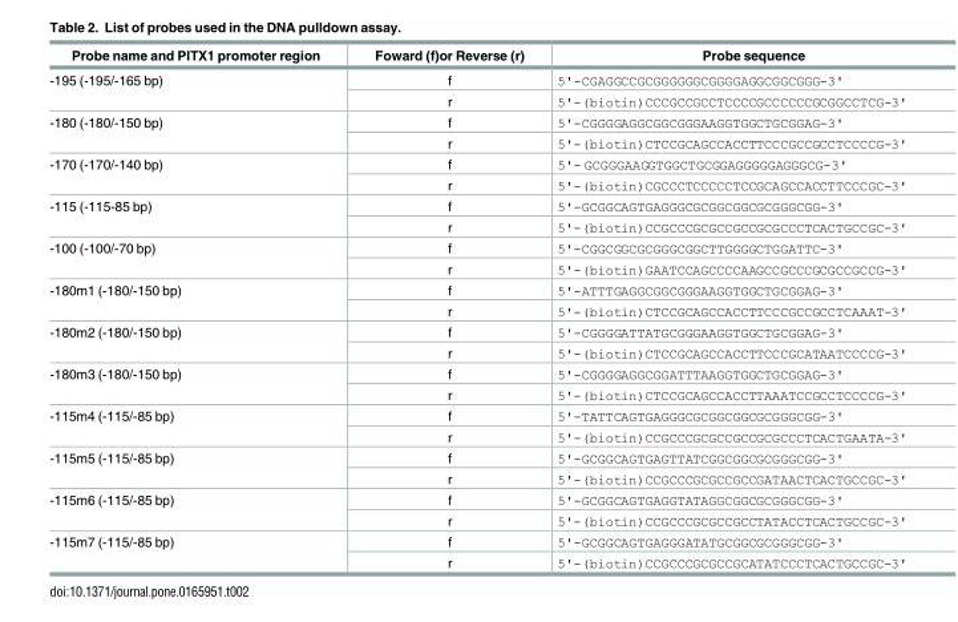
<table><thead><tr><td>Probe name and PITX1 promoter region</td><td>Foward (f)or Reverse (r)</td><td>Probe sequence</td></tr></thead><tbody><tr><td rowspan="2">-195 (-195/-165 bp)</td><td>f</td><td>5&#x27;-CGAGGCCGCGGGGGGCGGGGAGGCGGCGGG-3&#x27;</td></tr><tr><td>r</td><td>5&#x27;-(biotin)CCCGCCGCCTCCCCGCCCCCCGCGGCCTCG-3&#x27;</td></tr><tr><td rowspan="2">-180 (-180/-150 bp)</td><td>f</td><td>5&#x27;-CGGGGAGGCGGCGGGAAGGTGGCTGCGGAG-3&#x27;</td></tr><tr><td>r</td><td>5&#x27;-(biotin)CTCCGCAGCCACCTTCCCGCCGCCTCCCCG-3&#x27;</td></tr><tr><td rowspan="2">-170 (-170/-140 bp)</td><td>f</td><td>5&#x27;- GCGGGAAGGTGGCTGCGGAGGGGGAGGGCG-3&#x27;</td></tr><tr><td>r</td><td>5&#x27;-(biotin)CGCCCTCCCCCTCCGCAGCCACCTTCCCGC-3&#x27;</td></tr><tr><td rowspan="2">-115 (-115-85 bp)</td><td>f</td><td>5&#x27;-GCGGCAGTGAGGGCGCGGCGGCGCGGGCGG-3&#x27;</td></tr><tr><td>r</td><td>5&#x27;-(biotin)CCGCCCGCGCCGCCGCGCCCTCACTGCCGC-3&#x27;</td></tr><tr><td rowspan="2">-100 (-100/-70 bp)</td><td>f</td><td>5&#x27;-CGGCGGCGCGGGCGGCTTGGGGCTGGATTC-3&#x27;</td></tr><tr><td>r</td><td>5&#x27;-(biotin)GAATCCAGCCCCAAGCCGCCCGCGCCGCCG-3&#x27;</td></tr><tr><td rowspan="2">-180m1 (-180/-150 bp)</td><td>f</td><td>5&#x27;-ATTTGAGGCGGCGGGAAGGTGGCTGCGGAG-3&#x27;</td></tr><tr><td>r</td><td>5&#x27;-(biotin)CTCCGCAGCCACCTTCCCGCCGCCTCAAAT-3&#x27;</td></tr><tr><td rowspan="2">-180m2 (-180/-150 bp)</td><td>f</td><td>5&#x27;-CGGGGATTATGCGGGAAGGTGGCTGCGGAG-3&#x27;</td></tr><tr><td>r</td><td>5&#x27;-(biotin)CTCCGCAGCCACCTTCCCGCATAATCCCCG-3&#x27;</td></tr><tr><td rowspan="2">-180m3 (-180/-150 bp)</td><td>f</td><td>5&#x27;-CGGGGAGGCGGATTTAAGGTGGCTGCGGAG-3&#x27;</td></tr><tr><td>r</td><td>5&#x27;-(biotin)CTCCGCAGCCACCTTAAATCCGCCTCCCCG-3&#x27;</td></tr><tr><td rowspan="2">-115m4 (-115/-85 bp)</td><td>f</td><td>5&#x27;-TATTCAGTGAGGGCGCGGCGGCGCGGGCGG-3&#x27;</td></tr><tr><td>r</td><td>5&#x27;-(biotin)CCGCCCGCGCCGCCGCGCCCTCACTGAATA-3&#x27;</td></tr><tr><td rowspan="2">-115m5 (-115/-85 bp)</td><td>f</td><td>5&#x27;-GCGGCAGTGAGTTATCGGCGGCGCGGGCGG-3&#x27;</td></tr><tr><td>r</td><td>5&#x27;-(biotin)CCGCCCGCGCCGCCGATAACTCACTGCCGC-3&#x27;</td></tr><tr><td rowspan="2">-115m6 (-115/-85 bp)</td><td>f</td><td>5&#x27;-GCGGCAGTGAGGTATAGGCGGCGCGGGCGG-3&#x27;</td></tr><tr><td>r</td><td>5&#x27;-(biotin)CCGCCCGCGCCGCCTATACCTCACTGCCGC-3&#x27;</td></tr><tr><td rowspan="2">-115m7 (-115/-85 bp)</td><td>f</td><td>5&#x27;-GCGGCAGTGAGGGATATGCGGCGCGGGCGG-3&#x27;</td></tr><tr><td>r</td><td>5&#x27;-(biotin)CCGCCCGCGCCGCATATCCCTCACTGCCGC-3&#x27;</td></tr></tbody></table>